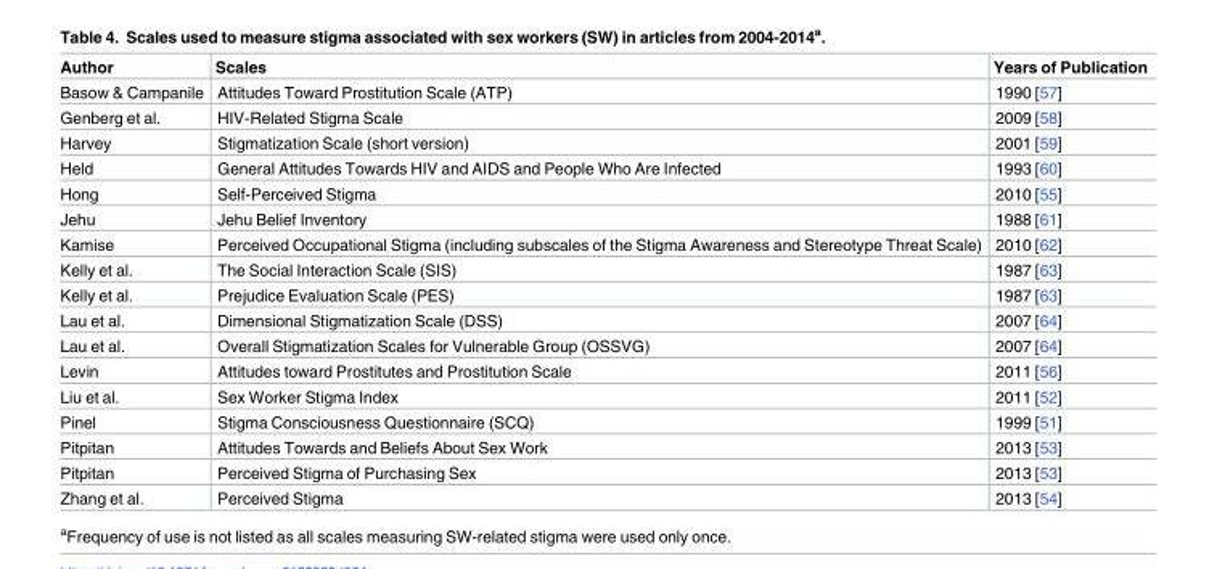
<table><thead><tr><td>Author</td><td>Scales</td><td>Years of Publication</td></tr></thead><tbody><tr><td>Basow &amp; Campanile</td><td>Attitudes Toward Prostitution Scale (ATP)</td><td>1990 [57]</td></tr><tr><td>Genberg et al.</td><td>HIV-Related Stigma Scale</td><td>2009 [58]</td></tr><tr><td>Harvey</td><td>Stigmatization Scale (short version)</td><td>2001 [59]</td></tr><tr><td>Held</td><td>General Attitudes Towards HIV and AIDS and People Who Are Infected</td><td>1993 [60]</td></tr><tr><td>Hong</td><td>Self-Perceived Stigma</td><td>2010 [55]</td></tr><tr><td>Jehu</td><td>Jehu Belief Inventory</td><td>1988 [61]</td></tr><tr><td>Kamise</td><td>Perceived Occupational Stigma (including subscales of the Stigma Awareness and Stereotype Threat Scale)</td><td>2010 [62]</td></tr><tr><td>Kelly et al.</td><td>The Social Interaction Scale (SIS)</td><td>1987 [63]</td></tr><tr><td>Kelly et al.</td><td>Prejudice Evaluation Scale (PES)</td><td>1987 [63]</td></tr><tr><td>Lau et al.</td><td>Dimensional Stigmatization Scale (DSS)</td><td>2007 [64]</td></tr><tr><td>Lau et al.</td><td>Overall Stigmatization Scales for Vulnerable Group (OSSVG)</td><td>2007 [64]</td></tr><tr><td>Levin</td><td>Attitudes toward Prostitutes and Prostitution Scale</td><td>2011 [56]</td></tr><tr><td>Liu et al.</td><td>Sex Worker Stigma Index</td><td>2011 [52]</td></tr><tr><td>Pinel</td><td>Stigma Consciousness Questionnaire (SCQ)</td><td>1999 [51]</td></tr><tr><td>Pitpitan</td><td>Attitudes Towards and Beliefs About Sex Work</td><td>2013 [53]</td></tr><tr><td>Pitpitan</td><td>Perceived Stigma of Purchasing Sex</td><td>2013 [53]</td></tr><tr><td>Zhang et al.</td><td>Perceived Stigma</td><td>2013 [54]</td></tr></tbody></table>